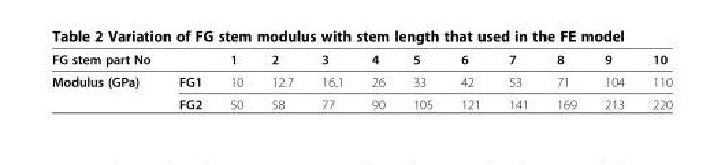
<table><thead><tr><td>FG stem part No</td><td></td><td>1</td><td>2</td><td>3</td><td>4</td><td>5</td><td>6</td><td>7</td><td>8</td><td>9</td><td>10</td></tr></thead><tbody><tr><td rowspan="2">Modulus (GPa)</td><td>FG1</td><td>10</td><td>12.7</td><td>16.1</td><td>26</td><td>33</td><td>42</td><td>53</td><td>71</td><td>104</td><td>110</td></tr><tr><td>FG2</td><td>50</td><td>58</td><td>77</td><td>90</td><td>105</td><td>121</td><td>141</td><td>169</td><td>213</td><td>220</td></tr></tbody></table>